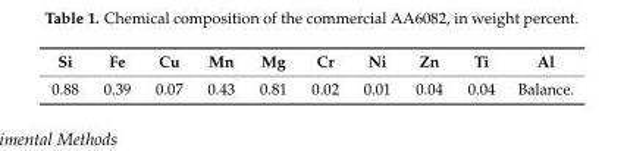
<table><thead><tr><td>Si</td><td>Fe</td><td>Cu</td><td>Mn</td><td>Mg</td><td>Cr</td><td>Ni</td><td>Zn</td><td>Ti</td><td>Al</td></tr></thead><tbody><tr><td>0.88</td><td>0.39</td><td>0.07</td><td>0.43</td><td>0.81</td><td>0.02</td><td>0.01</td><td>0.04</td><td>0.04</td><td>Balance.</td></tr></tbody></table>